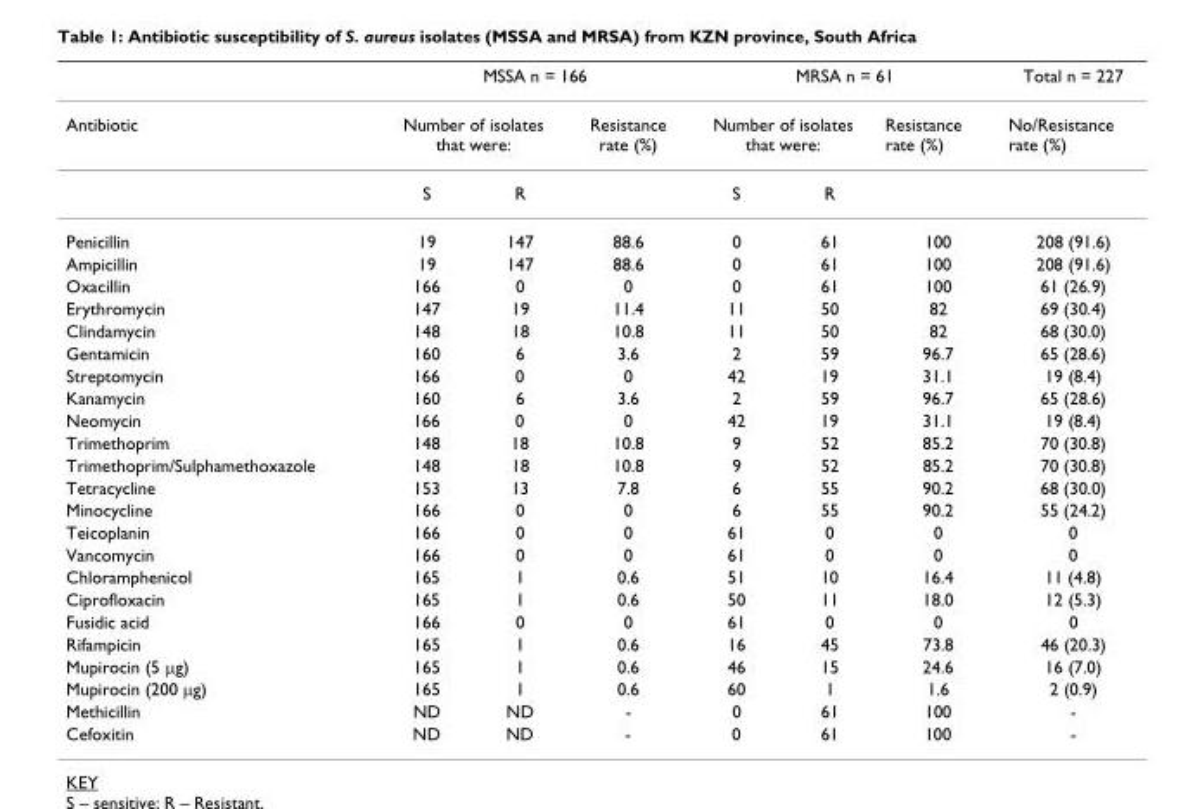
<table><thead><tr><td rowspan="3">Antibiotic</td><td colspan="3">MSSA n = 166</td><td colspan="3">MRSA n = 61</td><td rowspan="3">Total n = 227 No/Resistance rate (%)</td></tr><tr><td colspan="2">Number of isolates that were:</td><td rowspan="2">Resistance rate (%)</td><td colspan="2">Number of isolates that were:</td><td rowspan="2">Resistance rate (%)</td></tr><tr><td>S</td><td>R</td><td>S</td><td>R</td></tr></thead><tbody><tr><td>Penicillin</td><td>19</td><td>147</td><td>88.6</td><td>0</td><td>61</td><td>100</td><td>208 (91.6)</td></tr><tr><td>Ampicillin</td><td>19</td><td>147</td><td>88.6</td><td>0</td><td>61</td><td>100</td><td>208 (91.6)</td></tr><tr><td>Oxacillin</td><td>166</td><td>0</td><td>0</td><td>0</td><td>61</td><td>100</td><td>61 (26.9)</td></tr><tr><td>Erythromycin</td><td>147</td><td>19</td><td>11.4</td><td>11</td><td>50</td><td>82</td><td>69 (30.4)</td></tr><tr><td>Clindamycin</td><td>148</td><td>18</td><td>10.8</td><td>11</td><td>50</td><td>82</td><td>68 (30.0)</td></tr><tr><td>Gentamicin</td><td>160</td><td>6</td><td>3.6</td><td>2</td><td>59</td><td>96.7</td><td>65 (28.6)</td></tr><tr><td>Streptomycin</td><td>166</td><td>0</td><td>0</td><td>42</td><td>19</td><td>31.1</td><td>19 (8.4)</td></tr><tr><td>Kanamycin</td><td>160</td><td>6</td><td>3.6</td><td>2</td><td>59</td><td>96.7</td><td>65 (28.6)</td></tr><tr><td>Neomycin</td><td>166</td><td>0</td><td>0</td><td>42</td><td>19</td><td>31.1</td><td>19 (8.4)</td></tr><tr><td>Trimethoprim</td><td>148</td><td>18</td><td>10.8</td><td>9</td><td>52</td><td>85.2</td><td>70 (30.8)</td></tr><tr><td>Trimethoprim/Sulphamethoxazole</td><td>148</td><td>18</td><td>10.8</td><td>9</td><td>52</td><td>85.2</td><td>70 (30.8)</td></tr><tr><td>Tetracycline</td><td>153</td><td>13</td><td>7.8</td><td>6</td><td>55</td><td>90.2</td><td>68 (30.0)</td></tr><tr><td>Minocycline</td><td>166</td><td>0</td><td>0</td><td>6</td><td>55</td><td>90.2</td><td>55 (24.2)</td></tr><tr><td>Teicoplanin</td><td>166</td><td>0</td><td>0</td><td>61</td><td>0</td><td>0</td><td>0</td></tr><tr><td>Vancomycin</td><td>166</td><td>0</td><td>0</td><td>61</td><td>0</td><td>0</td><td>0</td></tr><tr><td>Chloramphenicol</td><td>165</td><td>1</td><td>0.6</td><td>51</td><td>10</td><td>16.4</td><td>11 (4.8)</td></tr><tr><td>Ciprofloxacin</td><td>165</td><td>1</td><td>0.6</td><td>50</td><td>11</td><td>18.0</td><td>12 (5.3)</td></tr><tr><td>Fusidic acid</td><td>166</td><td>0</td><td>0</td><td>61</td><td>0</td><td>0</td><td>0</td></tr><tr><td>Rifampicin</td><td>165</td><td>1</td><td>0.6</td><td>16</td><td>45</td><td>73.8</td><td>46 (20.3)</td></tr><tr><td>Mupirocin (5 µg)</td><td>165</td><td>1</td><td>0.6</td><td>46</td><td>15</td><td>24.6</td><td>16 (7.0)</td></tr><tr><td>Mupirocin (200 µg)</td><td>165</td><td>1</td><td>0.6</td><td>60</td><td>1</td><td>1.6</td><td>2 (0.9)</td></tr><tr><td>Methicillin</td><td>ND</td><td>ND</td><td>-</td><td>0</td><td>61</td><td>100</td><td>-</td></tr><tr><td>Cefoxitin</td><td>ND</td><td>ND</td><td>-</td><td>0</td><td>61</td><td>100</td><td>-</td></tr></tbody></table>